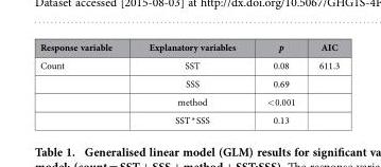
<table><thead><tr><td>Response variable</td><td>Explanatory variables</td><td>p</td><td>AIC</td></tr></thead><tbody><tr><td rowspan="4">Count</td><td>SST</td><td>0.08</td><td>611.3</td></tr><tr><td>SSS</td><td>0.69</td><td></td></tr><tr><td>method</td><td>&lt; 0.001</td><td></td></tr><tr><td>SST * SSS</td><td>0.13</td><td></td></tr></tbody></table>